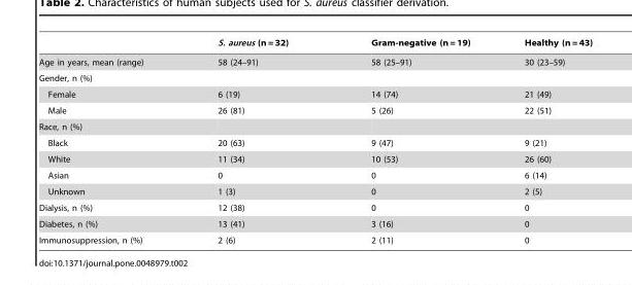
<table><thead><tr><td></td><td>S. aureus (n = 32)</td><td>Gram-negative (n = 19)</td><td>Healthy (n = 43)</td></tr></thead><tbody><tr><td>Age in years, mean (range)</td><td>58 (24–91)</td><td>58 (25–91)</td><td>30 (23–59)</td></tr><tr><td colspan="4">Gender, n (%)</td></tr><tr><td>Female</td><td>6 (19)</td><td>14 (74)</td><td>21 (49)</td></tr><tr><td>Male</td><td>26 (81)</td><td>5 (26)</td><td>22 (51)</td></tr><tr><td colspan="4">Race, n (%)</td></tr><tr><td>Black</td><td>20 (63)</td><td>9 (47)</td><td>9 (21)</td></tr><tr><td>White</td><td>11 (34)</td><td>10 (53)</td><td>26 (60)</td></tr><tr><td>Asian</td><td>0</td><td>0</td><td>6 (14)</td></tr><tr><td>Unknown</td><td>1 (3)</td><td>0</td><td>2 (5)</td></tr><tr><td>Dialysis, n (%)</td><td>12 (38)</td><td>0</td><td>0</td></tr><tr><td>Diabetes, n (%)</td><td>13 (41)</td><td>3 (16)</td><td>0</td></tr><tr><td>Immunosuppression, n (%)</td><td>2 (6)</td><td>2 (11)</td><td>0</td></tr></tbody></table>